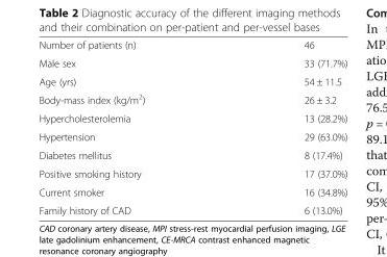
<table><tbody><tr><td>Number of patients (n)</td><td>46</td></tr><tr><td>Male sex</td><td>33 (71.7%)</td></tr><tr><td>Age (yrs)</td><td>54 ± 11.5</td></tr><tr><td>Body-mass index (kg/m<sup>2</sup>)</td><td>26 ± 3.2</td></tr><tr><td>Hypercholesterolemia</td><td>13 (28.2%)</td></tr><tr><td>Hypertension</td><td>29 (63.0%)</td></tr><tr><td>Diabetes mellitus</td><td>8 (17.4%)</td></tr><tr><td>Positive smoking history</td><td>17 (37.0%)</td></tr><tr><td>Current smoker</td><td>16 (34.8%)</td></tr><tr><td>Family history of CAD</td><td>6 (13.0%)</td></tr></tbody></table>